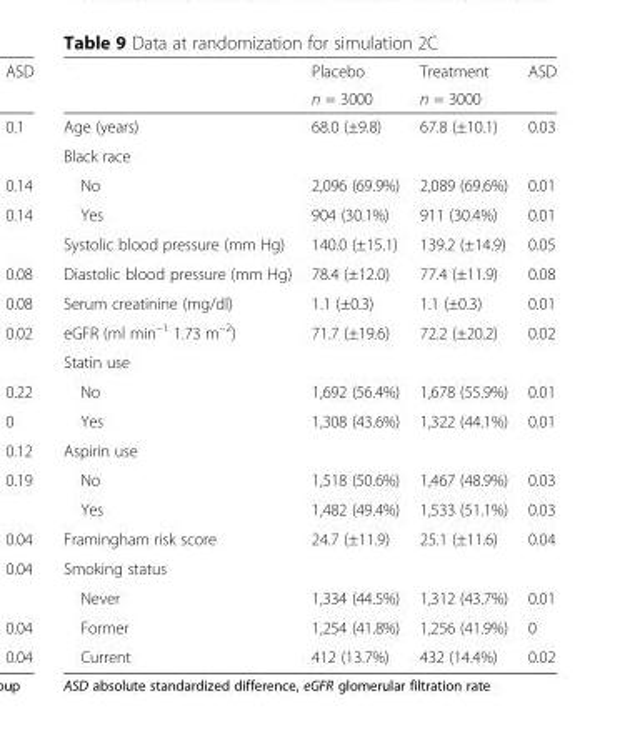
<table><thead><tr><td rowspan="2"></td><td rowspan="2">Placebo n = 3000</td><td rowspan="2">Treatment n = 3000</td><td rowspan="2">ASD</td></tr><tr></tr></thead><tbody><tr><td>Age (years)</td><td>68.0 (±9.8)</td><td>67.8 (±10.1)</td><td>0.03</td></tr><tr><td colspan="4">Black race</td></tr><tr><td>No</td><td>2,096 (69.9%)</td><td>2,089 (69.6%)</td><td>0.01</td></tr><tr><td>Yes</td><td>904 (30.1%)</td><td>911 (30.4%)</td><td>0.01</td></tr><tr><td>Systolic blood pressure (mm Hg)</td><td>140.0 (±15.1)</td><td>139.2 (±14.9)</td><td>0.05</td></tr><tr><td>Diastolic blood pressure (mm Hg)</td><td>78.4 (±12.0)</td><td>77.4 (±11.9)</td><td>0.08</td></tr><tr><td>Serum creatinine (mg/dl)</td><td>1.1 (±0.3)</td><td>1.1 (±0.3)</td><td>0.01</td></tr><tr><td>eGFR (ml min<sup>–1</sup> 1.73 m<sup>–2</sup>)</td><td>71.7 (±19.6)</td><td>72.2 (±20.2)</td><td>0.02</td></tr><tr><td colspan="4">Statin use</td></tr><tr><td>No</td><td>1,692 (56.4%)</td><td>1,678 (55.9%)</td><td>0.01</td></tr><tr><td>Yes</td><td>1,308 (43.6%)</td><td>1,322 (44.1%)</td><td>0.01</td></tr><tr><td colspan="4">Aspirin use</td></tr><tr><td>No</td><td>1,518 (50.6%)</td><td>1,467 (48.9%)</td><td>0.03</td></tr><tr><td>Yes</td><td>1,482 (49.4%)</td><td>1,533 (51.1%)</td><td>0.03</td></tr><tr><td>Framingham risk score</td><td>24.7 (±11.9)</td><td>25.1 (±11.6)</td><td>0.04</td></tr><tr><td colspan="4">Smoking status</td></tr><tr><td>Never</td><td>1,334 (44.5%)</td><td>1,312 (43.7%)</td><td>0.01</td></tr><tr><td>Former</td><td>1,254 (41.8%)</td><td>1,256 (41.9%)</td><td>0</td></tr><tr><td>Current</td><td>412 (13.7%)</td><td>432 (14.4%)</td><td>0.02</td></tr></tbody></table>